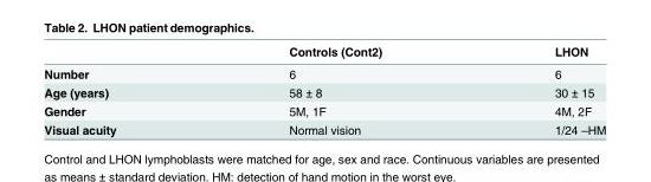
<table><thead><tr><td></td><td>Controls (Cont2)</td><td>LHON</td></tr></thead><tbody><tr><td>Number</td><td>6</td><td>6</td></tr><tr><td>Age (years)</td><td>58 ± 8</td><td>30 ± 15</td></tr><tr><td>Gender</td><td>5M, 1F</td><td>4M, 2F</td></tr><tr><td>Visual acuity</td><td>Normal vision</td><td>1/24 –HM</td></tr></tbody></table>